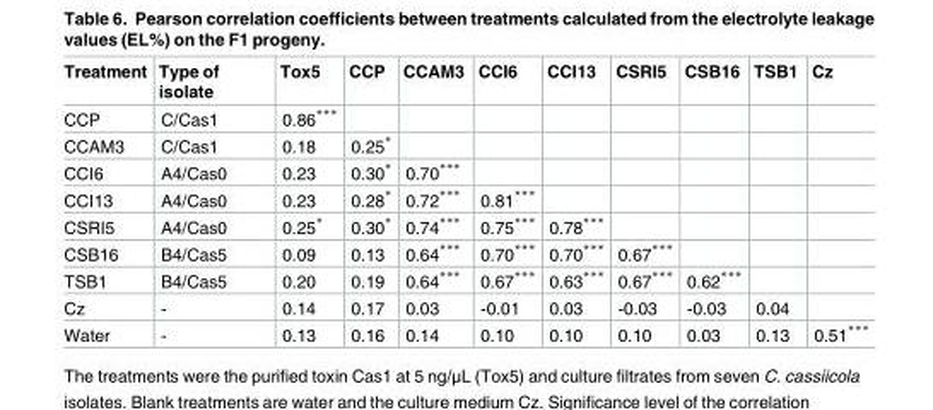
<table><thead><tr><td>Treatment</td><td>Type of isolate</td><td>Tox5</td><td>CCP</td><td>CCAM3</td><td>CCI6</td><td>CCI13</td><td>CSRI5</td><td>CSB16</td><td>TSB1</td><td>Cz</td></tr></thead><tbody><tr><td>CCP</td><td>C/Cas1</td><td>0.86***</td><td></td><td></td><td></td><td></td><td></td><td></td><td></td><td></td></tr><tr><td>CCAM3</td><td>C/Cas1</td><td>0.18</td><td>0.25*</td><td></td><td></td><td></td><td></td><td></td><td></td><td></td></tr><tr><td>CCI6</td><td>A4/Cas0</td><td>0.23</td><td>0.30*</td><td>0.70***</td><td></td><td></td><td></td><td></td><td></td><td></td></tr><tr><td>CCI13</td><td>A4/Cas0</td><td>0.23</td><td>0.28*</td><td>0.72***</td><td>0.81***</td><td></td><td></td><td></td><td></td><td></td></tr><tr><td>CSRI5</td><td>A4/Cas0</td><td>0.25*</td><td>0.30*</td><td>0.74***</td><td>0.75***</td><td>0.78***</td><td></td><td></td><td></td><td></td></tr><tr><td>CSB16</td><td>B4/Cas5</td><td>0.09</td><td>0.13</td><td>0.64***</td><td>0.70***</td><td>0.70***</td><td>0.67***</td><td></td><td></td><td></td></tr><tr><td>TSB1</td><td>B4/Cas5</td><td>0.20</td><td>0.19</td><td>0.64***</td><td>0.67***</td><td>0.63***</td><td>0.67***</td><td>0.62***</td><td></td><td></td></tr><tr><td>Cz</td><td>-</td><td>0.14</td><td>0.17</td><td>0.03</td><td>-0.01</td><td>0.03</td><td>-0.03</td><td>-0.03</td><td>0.04</td><td></td></tr><tr><td>Water</td><td>-</td><td>0.13</td><td>0.16</td><td>0.14</td><td>0.10</td><td>0.10</td><td>0.10</td><td>0.03</td><td>0.13</td><td>0.51***</td></tr></tbody></table>